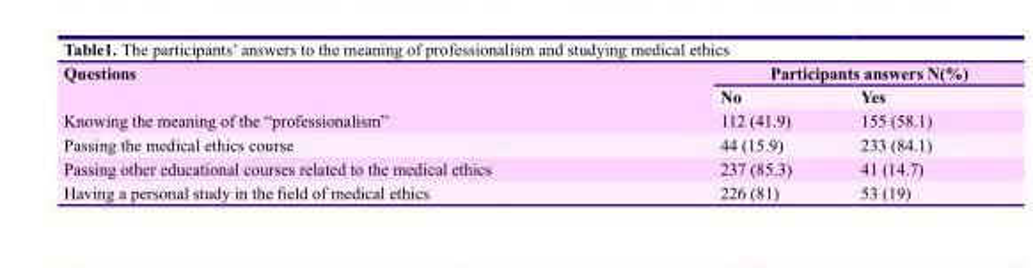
<table><thead><tr><td rowspan="2">Questions</td><td colspan="2">Participants answers N(%)</td></tr><tr><td>No</td><td>Yes</td></tr></thead><tbody><tr><td>Knowing the meaning of the “professionalism”</td><td>112 (41.9)</td><td>155 (58.1)</td></tr><tr><td>Passing the medical ethics course</td><td>44 (15.9)</td><td>233 (84.1)</td></tr><tr><td>Passing other educational courses related to the medical ethics</td><td>237 (85.3)</td><td>41 (14.7)</td></tr><tr><td>Having a personal study in the field of medical ethics</td><td>226 (81)</td><td>53 (19)</td></tr></tbody></table>